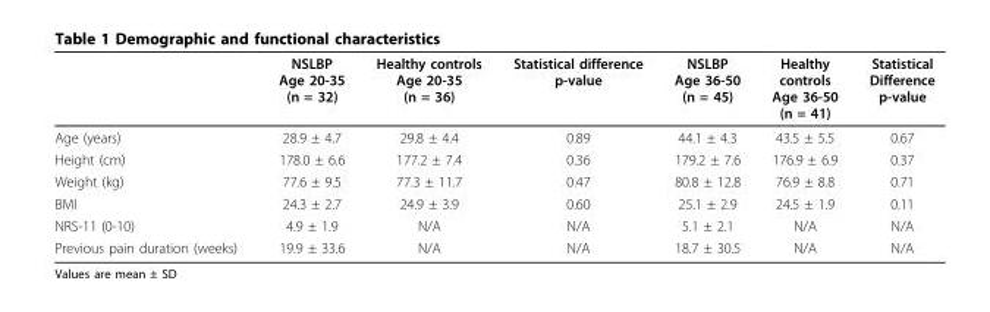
<table><thead><tr><td></td><td>NSLBP Age 20-35 (n = 32)</td><td>Healthy controls Age 20-35 (n = 36)</td><td>Statistical difference p-value</td><td>NSLBP Age 36-50 (n = 45)</td><td>Healthy controls Age 36-50 (n = 41)</td><td>Statistical Difference p-value</td></tr></thead><tbody><tr><td>Age (years)</td><td>28.9 ± 4.7</td><td>29.8 ± 4.4</td><td>0.89</td><td>44.1 ± 4.3</td><td>43.5 ± 5.5</td><td>0.67</td></tr><tr><td>Height (cm)</td><td>178.0 ± 6.6</td><td>177.2 ± 7.4</td><td>0.36</td><td>179.2 ± 7.6</td><td>176.9 ± 6.9</td><td>0.37</td></tr><tr><td>Weight (kg)</td><td>77.6 ± 9.5</td><td>77.3 ± 11.7</td><td>0.47</td><td>80.8 ± 12.8</td><td>76.9 ± 8.8</td><td>0.71</td></tr><tr><td>BMI</td><td>24.3 ± 2.7</td><td>24.9 ± 3.9</td><td>0.60</td><td>25.1 ± 2.9</td><td>24.5 ± 1.9</td><td>0.11</td></tr><tr><td>NRS-11 (0-10)</td><td>4.9 ± 1.9</td><td>N/A</td><td>N/A</td><td>5.1 ± 2.1</td><td>N/A</td><td>N/A</td></tr><tr><td>Previous pain duration (weeks)</td><td>19.9 ± 33.6</td><td>N/A</td><td>N/A</td><td>18.7 ± 30.5</td><td>N/A</td><td>N/A</td></tr></tbody></table>